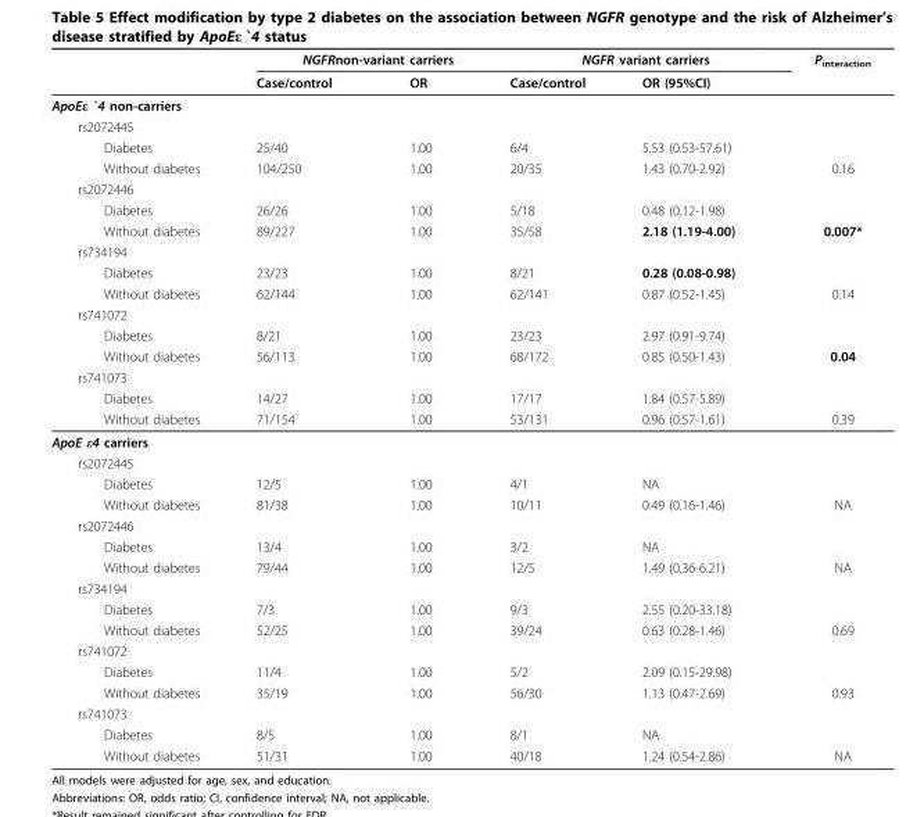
<table><thead><tr><td rowspan="2"></td><td colspan="2">NGFRnon-variant carriers</td><td colspan="2">NGFR variant carriers</td><td rowspan="2">P<sub>interaction</sub></td></tr><tr><td>Case/control</td><td>OR</td><td>Case/control</td><td>OR (95%CI)</td></tr></thead><tbody><tr><td colspan="6">ApoEε `4 non-carriers</td></tr><tr><td colspan="6">rs2072445</td></tr><tr><td>Diabetes</td><td>25/40</td><td>1.00</td><td>6/4</td><td>5.53 (0.53-57.61)</td><td></td></tr><tr><td>Without diabetes</td><td>104/250</td><td>1.00</td><td>20/35</td><td>1.43 (0.70-2.92)</td><td>0.16</td></tr><tr><td colspan="6">rs2072446</td></tr><tr><td>Diabetes</td><td>26/26</td><td>1.00</td><td>5/18</td><td>0.48 (0.12-1.98)</td><td></td></tr><tr><td>Without diabetes</td><td>89/227</td><td>1.00</td><td>35/58</td><td>2.18 (1.19-4.00)</td><td>0.007*</td></tr><tr><td colspan="6">rs734194</td></tr><tr><td>Diabetes</td><td>23/23</td><td>1.00</td><td>8/21</td><td>0.28 (0.08-0.98)</td><td></td></tr><tr><td>Without diabetes</td><td>62/144</td><td>1.00</td><td>62/141</td><td>0.87 (0.52-1.45)</td><td>0.14</td></tr><tr><td colspan="6">rs741072</td></tr><tr><td>Diabetes</td><td>8/21</td><td>1.00</td><td>23/23</td><td>2.97 (0.91-9.74)</td><td></td></tr><tr><td>Without diabetes</td><td>56/113</td><td>1.00</td><td>68/172</td><td>0.85 (0.50-1.43)</td><td>0.04</td></tr><tr><td colspan="6">rs741073</td></tr><tr><td>Diabetes</td><td>14/27</td><td>1.00</td><td>17/17</td><td>1.84 (0.57-5.89)</td><td></td></tr><tr><td>Without diabetes</td><td>71/154</td><td>1.00</td><td>53/131</td><td>0.96 (0.57-1.61)</td><td>0.39</td></tr><tr><td colspan="6">ApoE ε4 carriers</td></tr><tr><td colspan="6">rs2072445</td></tr><tr><td>Diabetes</td><td>12/5</td><td>1.00</td><td>4/1</td><td>NA</td><td></td></tr><tr><td>Without diabetes</td><td>81/38</td><td>1.00</td><td>10/11</td><td>0.49 (0.16-1.46)</td><td>NA</td></tr><tr><td colspan="6">rs2072446</td></tr><tr><td>Diabetes</td><td>13/4</td><td>1.00</td><td>3/2</td><td>NA</td><td></td></tr><tr><td>Without diabetes</td><td>79/44</td><td>1.00</td><td>12/5</td><td>1.49 (0.36-6.21)</td><td>NA</td></tr><tr><td colspan="6">rs734194</td></tr><tr><td>Diabetes</td><td>7/3</td><td>1.00</td><td>9/3</td><td>2.55 (0.20-33.18)</td><td></td></tr><tr><td>Without diabetes</td><td>52/25</td><td>1.00</td><td>39/24</td><td>0.63 (0.28-1.46)</td><td>0.69</td></tr><tr><td colspan="6">rs741072</td></tr><tr><td>Diabetes</td><td>11/4</td><td>1.00</td><td>5/2</td><td>2.09 (0.15-29.98)</td><td></td></tr><tr><td>Without diabetes</td><td>35/19</td><td>1.00</td><td>56/30</td><td>1.13 (0.47-2.69)</td><td>0.93</td></tr><tr><td colspan="6">rs741073</td></tr><tr><td>Diabetes</td><td>8/5</td><td>1.00</td><td>8/1</td><td>NA</td><td></td></tr><tr><td>Without diabetes</td><td>51/31</td><td>1.00</td><td>40/18</td><td>1.24 (0.54-2.86)</td><td>NA</td></tr></tbody></table>